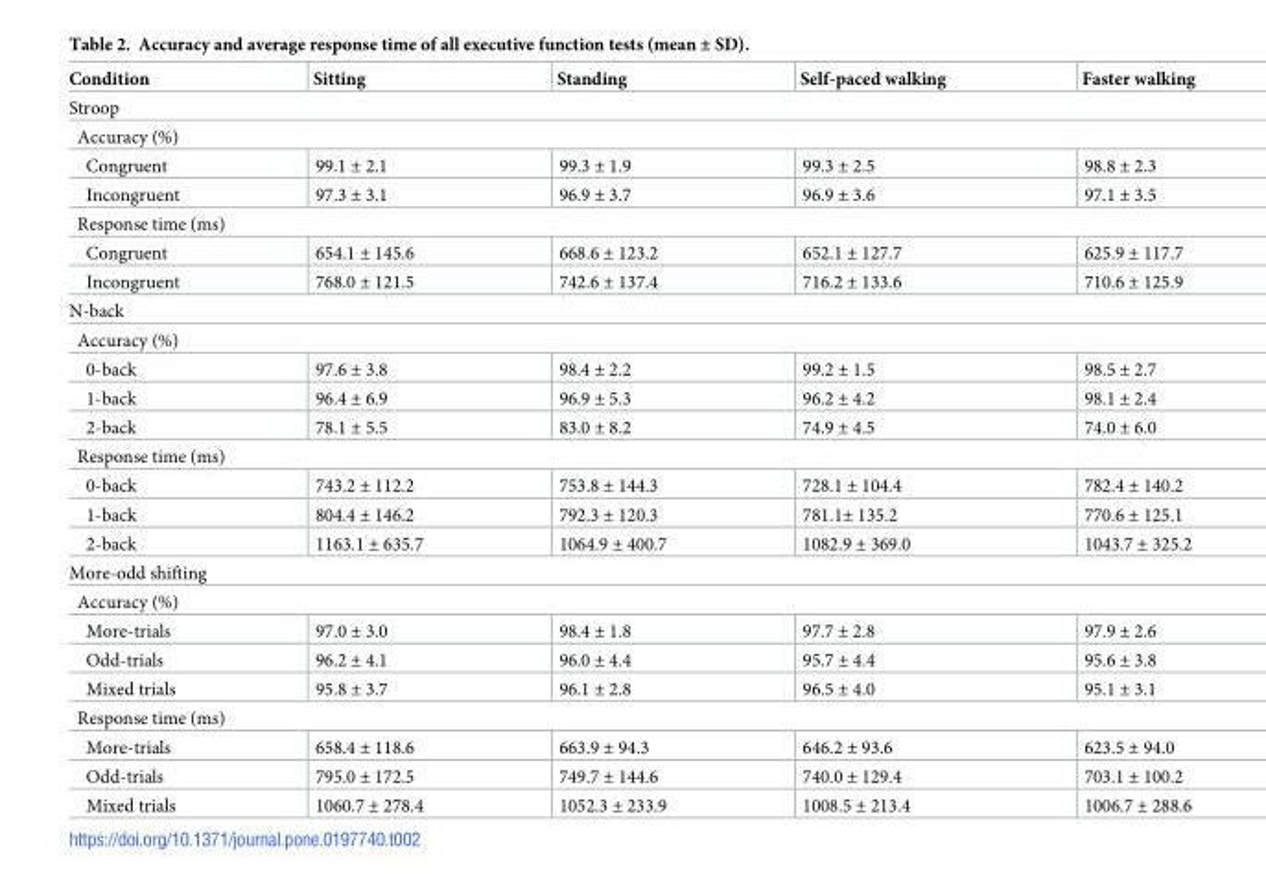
<table><thead><tr><td>Condition</td><td>Sitting</td><td>Standing</td><td>Self-paced walking</td><td>Faster walking</td></tr></thead><tbody><tr><td colspan="5">Stroop</td></tr><tr><td colspan="5">Accuracy (%)</td></tr><tr><td>Congruent</td><td>99.1 ± 2.1</td><td>99.3 ± 1.9</td><td>99.3 ± 2.5</td><td>98.8 ± 2.3</td></tr><tr><td>Incongruent</td><td>97.3 ± 3.1</td><td>96.9 ± 3.7</td><td>96.9 ± 3.6</td><td>97.1 ± 3.5</td></tr><tr><td colspan="5">Response time (ms)</td></tr><tr><td>Congruent</td><td>654.1 ± 145.6</td><td>668.6 ± 123.2</td><td>652.1 ± 127.7</td><td>625.9 ± 117.7</td></tr><tr><td>Incongruent</td><td>768.0 ± 121.5</td><td>742.6 ± 137.4</td><td>716.2 ± 133.6</td><td>710.6 ± 125.9</td></tr><tr><td colspan="5">N-back</td></tr><tr><td colspan="5">Accuracy (%)</td></tr><tr><td>0-back</td><td>97.6 ± 3.8</td><td>98.4 ± 2.2</td><td>99.2 ± 1.5</td><td>98.5 ± 2.7</td></tr><tr><td>1-back</td><td>96.4 ± 6.9</td><td>96.9 ± 5.3</td><td>96.2 ± 4.2</td><td>98.1 ± 2.4</td></tr><tr><td>2-back</td><td>78.1 ± 5.5</td><td>83.0 ± 8.2</td><td>74.9 ± 4.5</td><td>74.0 ± 6.0</td></tr><tr><td colspan="5">Response time (ms)</td></tr><tr><td>0-back</td><td>743.2 ± 112.2</td><td>753.8 ± 144.3</td><td>728.1 ± 104.4</td><td>782.4 ± 140.2</td></tr><tr><td>1-back</td><td>804.4 ± 146.2</td><td>792.3 ± 120.3</td><td>781.1± 135.2</td><td>770.6 ± 125.1</td></tr><tr><td>2-back</td><td>1163.1 ± 635.7</td><td>1064.9 ± 400.7</td><td>1082.9 ± 369.0</td><td>1043.7 ± 325.2</td></tr><tr><td colspan="5">More-odd shifting</td></tr><tr><td colspan="5">Accuracy (%)</td></tr><tr><td>More-trials</td><td>97.0 ± 3.0</td><td>98.4 ± 1.8</td><td>97.7 ± 2.8</td><td>97.9 ± 2.6</td></tr><tr><td>Odd-trials</td><td>96.2 ± 4.1</td><td>96.0 ± 4.4</td><td>95.7 ± 4.4</td><td>95.6 ± 3.8</td></tr><tr><td>Mixed trials</td><td>95.8 ± 3.7</td><td>96.1 ± 2.8</td><td>96.5 ± 4.0</td><td>95.1 ± 3.1</td></tr><tr><td colspan="5">Response time (ms)</td></tr><tr><td>More-trials</td><td>658.4 ± 118.6</td><td>663.9 ± 94.3</td><td>646.2 ± 93.6</td><td>623.5 ± 94.0</td></tr><tr><td>Odd-trials</td><td>795.0 ± 172.5</td><td>749.7 ± 144.6</td><td>740.0 ± 129.4</td><td>703.1 ± 100.2</td></tr><tr><td>Mixed trials</td><td>1060.7 ± 278.4</td><td>1052.3 ± 233.9</td><td>1008.5 ± 213.4</td><td>1006.7 ± 288.6</td></tr></tbody></table>